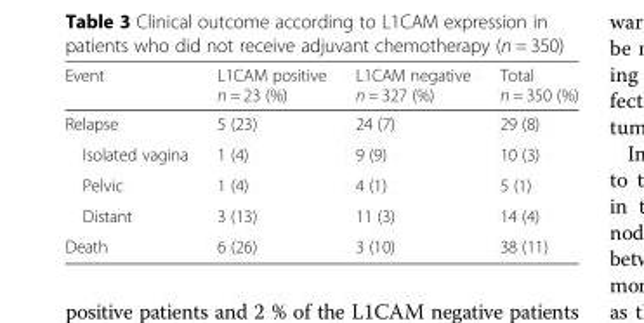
<table><thead><tr><td>Event</td><td>L1CAM positive n = 23 (%)</td><td>L1CAM negative n = 327 (%)</td><td>Total n = 350 (%)</td></tr></thead><tbody><tr><td>Relapse</td><td>5 (23)</td><td>24 (7)</td><td>29 (8)</td></tr><tr><td>Isolated vagina</td><td>1 (4)</td><td>9 (9)</td><td>10 (3)</td></tr><tr><td>Pelvic</td><td>1 (4)</td><td>4 (1)</td><td>5 (1)</td></tr><tr><td>Distant</td><td>3 (13)</td><td>11 (3)</td><td>14 (4)</td></tr><tr><td>Death</td><td>6 (26)</td><td>3 (10)</td><td>38 (11)</td></tr></tbody></table>